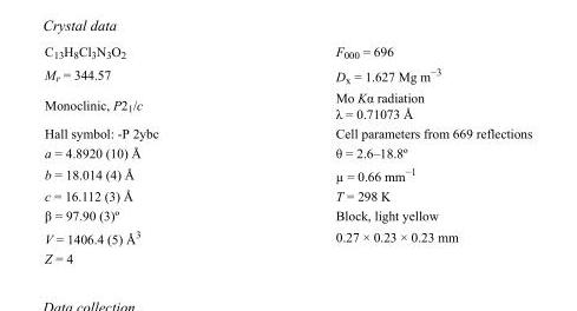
<table><tbody><tr><td>C<sub>13</sub>H<sub>8</sub>Cl<sub>3</sub>N<sub>3</sub>O<sub>2</sub></td><td>F000 = 696</td></tr><tr><td>M<sub>r</sub> = 344.57</td><td>D<sub>x</sub> = 1.627 Mg m<sup>−3</sup></td></tr><tr><td>Monoclinic, P2<sub>1</sub>/c</td><td>Mo Kα radiation λ = 0.71073 Å</td></tr><tr><td>Hall symbol: -P 2ybc</td><td>Cell parameters from 669 reflections</td></tr><tr><td>a = 4.8920 (10) Å</td><td>θ = 2.6–18.8º</td></tr><tr><td>b = 18.014 (4) Å</td><td>µ = 0.66 mm<sup>−1</sup></td></tr><tr><td>c = 16.112 (3) Å</td><td>T = 298 K</td></tr><tr><td>β = 97.90 (3)º</td><td>Block, light yellow</td></tr><tr><td>V = 1406.4 (5) Å<sup>3</sup></td><td>0.27 × 0.23 × 0.23 mm</td></tr><tr><td>Z = 4</td><td></td></tr></tbody></table>